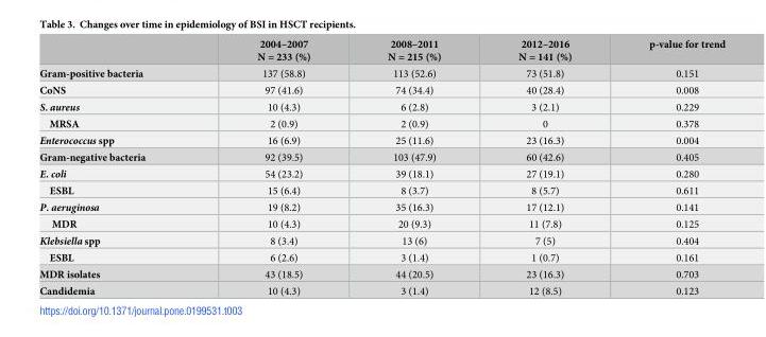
<table><thead><tr><td></td><td>2004–2007 N = 233 (%)</td><td>2008–2011 N = 215 (%)</td><td>2012–2016 N = 141 (%)</td><td>p-value for trend</td></tr></thead><tbody><tr><td>Gram-positive bacteria</td><td>137 (58.8)</td><td>113 (52.6)</td><td>73 (51.8)</td><td>0.151</td></tr><tr><td>CoNS</td><td>97 (41.6)</td><td>74 (34.4)</td><td>40 (28.4)</td><td>0.008</td></tr><tr><td>S. aureus</td><td>10 (4.3)</td><td>6 (2.8)</td><td>3 (2.1)</td><td>0.229</td></tr><tr><td>MRSA</td><td>2 (0.9)</td><td>2 (0.9)</td><td>0</td><td>0.378</td></tr><tr><td>Enterococcus spp</td><td>16 (6.9)</td><td>25 (11.6)</td><td>23 (16.3)</td><td>0.004</td></tr><tr><td>Gram-negative bacteria</td><td>92 (39.5)</td><td>103 (47.9)</td><td>60 (42.6)</td><td>0.405</td></tr><tr><td>E. coli</td><td>54 (23.2)</td><td>39 (18.1)</td><td>27 (19.1)</td><td>0.280</td></tr><tr><td>ESBL</td><td>15 (6.4)</td><td>8 (3.7)</td><td>8 (5.7)</td><td>0.611</td></tr><tr><td>P. aeruginosa</td><td>19 (8.2)</td><td>35 (16.3)</td><td>17 (12.1)</td><td>0.141</td></tr><tr><td>MDR</td><td>10 (4.3)</td><td>20 (9.3)</td><td>11 (7.8)</td><td>0.125</td></tr><tr><td>Klebsiella spp</td><td>8 (3.4)</td><td>13 (6)</td><td>7 (5)</td><td>0.404</td></tr><tr><td>ESBL</td><td>6 (2.6)</td><td>3 (1.4)</td><td>1 (0.7)</td><td>0.161</td></tr><tr><td>MDR isolates</td><td>43 (18.5)</td><td>44 (20.5)</td><td>23 (16.3)</td><td>0.703</td></tr><tr><td>Candidemia</td><td>10 (4.3)</td><td>3 (1.4)</td><td>12 (8.5)</td><td>0.123</td></tr></tbody></table>